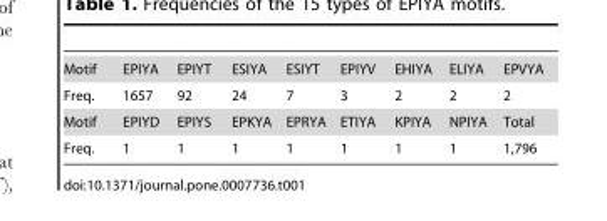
<table><tbody><tr><td>Motif</td><td>EPIYA</td><td>EPIYT</td><td>ESIYA</td><td>ESIYT</td><td>EPIYV</td><td>EHIYA</td><td>ELIYA</td><td>EPVYA</td></tr><tr><td>Freq.</td><td>1657</td><td>92</td><td>24</td><td>7</td><td>3</td><td>2</td><td>2</td><td>2</td></tr><tr><td>Motif</td><td>EPIYD</td><td>EPIYS</td><td>EPKYA</td><td>EPRYA</td><td>ETIYA</td><td>KPIYA</td><td>NPIYA</td><td>Total</td></tr><tr><td>Freq.</td><td>1</td><td>1</td><td>1</td><td>1</td><td>1</td><td>1</td><td>1</td><td>1,796</td></tr></tbody></table>